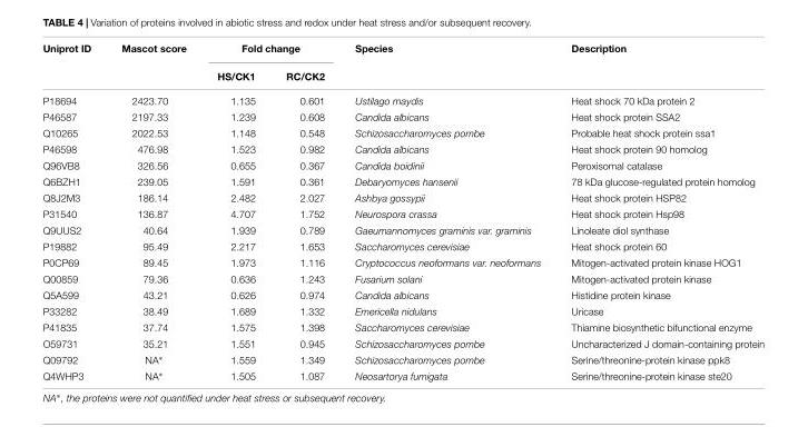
<table><thead><tr><td rowspan="2">Uniprot ID</td><td rowspan="2">Mascot score</td><td colspan="2">Fold change</td><td rowspan="2">Species</td><td rowspan="2">Description</td></tr><tr><td>HS/CK1</td><td>RC/CK2</td></tr></thead><tbody><tr><td>P18694</td><td>2423.70</td><td>1.135</td><td>0.601</td><td>Ustilago maydis</td><td>Heat shock 70 kDa protein 2</td></tr><tr><td>P46587</td><td>2197.33</td><td>1.239</td><td>0.608</td><td>Candida albicans</td><td>Heat shock protein SSA2</td></tr><tr><td>Q10265</td><td>2022.53</td><td>1.148</td><td>0.548</td><td>Schizosaccharomyces pombe</td><td>Probable heat shock protein ssa1</td></tr><tr><td>P46598</td><td>476.98</td><td>1.523</td><td>0.982</td><td>Candida albicans</td><td>Heat shock protein 90 homolog</td></tr><tr><td>Q96VB8</td><td>326.56</td><td>0.655</td><td>0.367</td><td>Candida boidinii</td><td>Peroxisomal catalase</td></tr><tr><td>Q6BZH1</td><td>239.05</td><td>1.591</td><td>0.361</td><td>Debaryomyces hansenii</td><td>78 kDa glucose-regulated protein homolog</td></tr><tr><td>Q8J2M3</td><td>186.14</td><td>2.482</td><td>2.027</td><td>Ashbya gossypii</td><td>Heat shock protein HSP82</td></tr><tr><td>P31540</td><td>136.87</td><td>4.707</td><td>1.752</td><td>Neurospora crassa</td><td>Heat shock protein Hsp98</td></tr><tr><td>Q9UUS2</td><td>40.64</td><td>1.939</td><td>0.789</td><td>Gaeumannomyces graminis var. graminis</td><td>Linoleate diol synthase</td></tr><tr><td>P19882</td><td>95.49</td><td>2.217</td><td>1.653</td><td>Saccharomyces cerevisiae</td><td>Heat shock protein 60</td></tr><tr><td>P0CP69</td><td>89.45</td><td>1.973</td><td>1.116</td><td>Cryptococcus neoformans var. neoformans</td><td>Mitogen-activated protein kinase HOG1</td></tr><tr><td>Q00859</td><td>79.36</td><td>0.636</td><td>1.243</td><td>Fusarium solani</td><td>Mitogen-activated protein kinase</td></tr><tr><td>Q5A599</td><td>43.21</td><td>0.626</td><td>0.974</td><td>Candida albicans</td><td>Histidine protein kinase</td></tr><tr><td>P33282</td><td>38.49</td><td>1.689</td><td>1.332</td><td>Emericella nidulans</td><td>Uricase</td></tr><tr><td>P41835</td><td>37.74</td><td>1.575</td><td>1.398</td><td>Saccharomyces cerevisiae</td><td>Thiamine biosynthetic bifunctional enzyme</td></tr><tr><td>O59731</td><td>35.21</td><td>1.551</td><td>0.945</td><td>Schizosaccharomyces pombe</td><td>Uncharacterized J domain-containing protein</td></tr><tr><td>Q09792</td><td>NA∗</td><td>1.559</td><td>1.349</td><td>Schizosaccharomyces pombe</td><td>Serine/threonine-protein kinase ppk8</td></tr><tr><td>Q4WHP3</td><td>NA∗</td><td>1.505</td><td>1.087</td><td>Neosartorya fumigata</td><td>Serine/threonine-protein kinase ste20</td></tr></tbody></table>